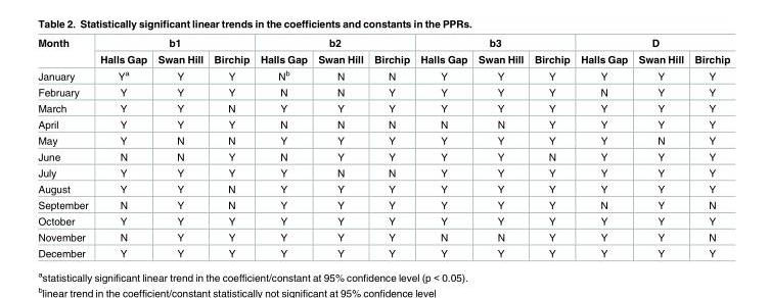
<table><thead><tr><td rowspan="2">Month</td><td colspan="3">b1</td><td colspan="3">b2</td><td colspan="3">b3</td><td colspan="3">D</td></tr><tr><td>Halls Gap</td><td>Swan Hill</td><td>Birchip</td><td>Halls Gap</td><td>Swan Hill</td><td>Birchip</td><td>Halls Gap</td><td>Swan Hill</td><td>Birchip</td><td>Halls Gap</td><td>Swan Hill</td><td>Birchip</td></tr></thead><tbody><tr><td>January</td><td>Y<sup>a</sup></td><td>Y</td><td>Y</td><td>N<sup>b</sup></td><td>N</td><td>N</td><td>Y</td><td>Y</td><td>Y</td><td>Y</td><td>Y</td><td>Y</td></tr><tr><td>February</td><td>Y</td><td>Y</td><td>Y</td><td>N</td><td>N</td><td>Y</td><td>Y</td><td>Y</td><td>Y</td><td>N</td><td>Y</td><td>Y</td></tr><tr><td>March</td><td>Y</td><td>Y</td><td>N</td><td>Y</td><td>Y</td><td>Y</td><td>Y</td><td>Y</td><td>Y</td><td>Y</td><td>Y</td><td>Y</td></tr><tr><td>April</td><td>Y</td><td>Y</td><td>Y</td><td>N</td><td>N</td><td>N</td><td>N</td><td>N</td><td>Y</td><td>Y</td><td>Y</td><td>Y</td></tr><tr><td>May</td><td>Y</td><td>N</td><td>N</td><td>Y</td><td>Y</td><td>Y</td><td>Y</td><td>Y</td><td>Y</td><td>Y</td><td>N</td><td>Y</td></tr><tr><td>June</td><td>N</td><td>N</td><td>Y</td><td>N</td><td>Y</td><td>Y</td><td>Y</td><td>Y</td><td>N</td><td>Y</td><td>Y</td><td>Y</td></tr><tr><td>July</td><td>Y</td><td>Y</td><td>Y</td><td>Y</td><td>N</td><td>N</td><td>Y</td><td>Y</td><td>Y</td><td>Y</td><td>Y</td><td>Y</td></tr><tr><td>August</td><td>Y</td><td>Y</td><td>N</td><td>Y</td><td>Y</td><td>Y</td><td>Y</td><td>Y</td><td>Y</td><td>Y</td><td>Y</td><td>Y</td></tr><tr><td>September</td><td>N</td><td>Y</td><td>N</td><td>Y</td><td>Y</td><td>Y</td><td>Y</td><td>Y</td><td>Y</td><td>N</td><td>Y</td><td>N</td></tr><tr><td>October</td><td>Y</td><td>Y</td><td>Y</td><td>Y</td><td>Y</td><td>Y</td><td>Y</td><td>Y</td><td>Y</td><td>Y</td><td>Y</td><td>Y</td></tr><tr><td>November</td><td>N</td><td>Y</td><td>Y</td><td>Y</td><td>Y</td><td>Y</td><td>N</td><td>N</td><td>Y</td><td>Y</td><td>Y</td><td>N</td></tr><tr><td>December</td><td>Y</td><td>Y</td><td>Y</td><td>Y</td><td>Y</td><td>Y</td><td>Y</td><td>Y</td><td>Y</td><td>Y</td><td>Y</td><td>Y</td></tr></tbody></table>